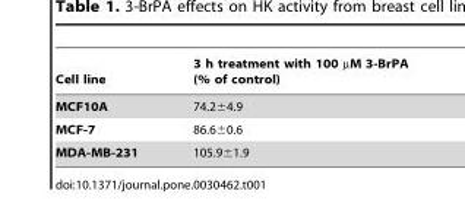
<table><thead><tr><td>Cell line</td><td>3 h treatment with 100 µM 3-BrPA (% of control)</td></tr></thead><tbody><tr><td>MCF10A</td><td>74.2±4.9</td></tr><tr><td>MCF-7</td><td>86.6±0.6</td></tr><tr><td>MDA-MB-231</td><td>105.9±1.9</td></tr></tbody></table>